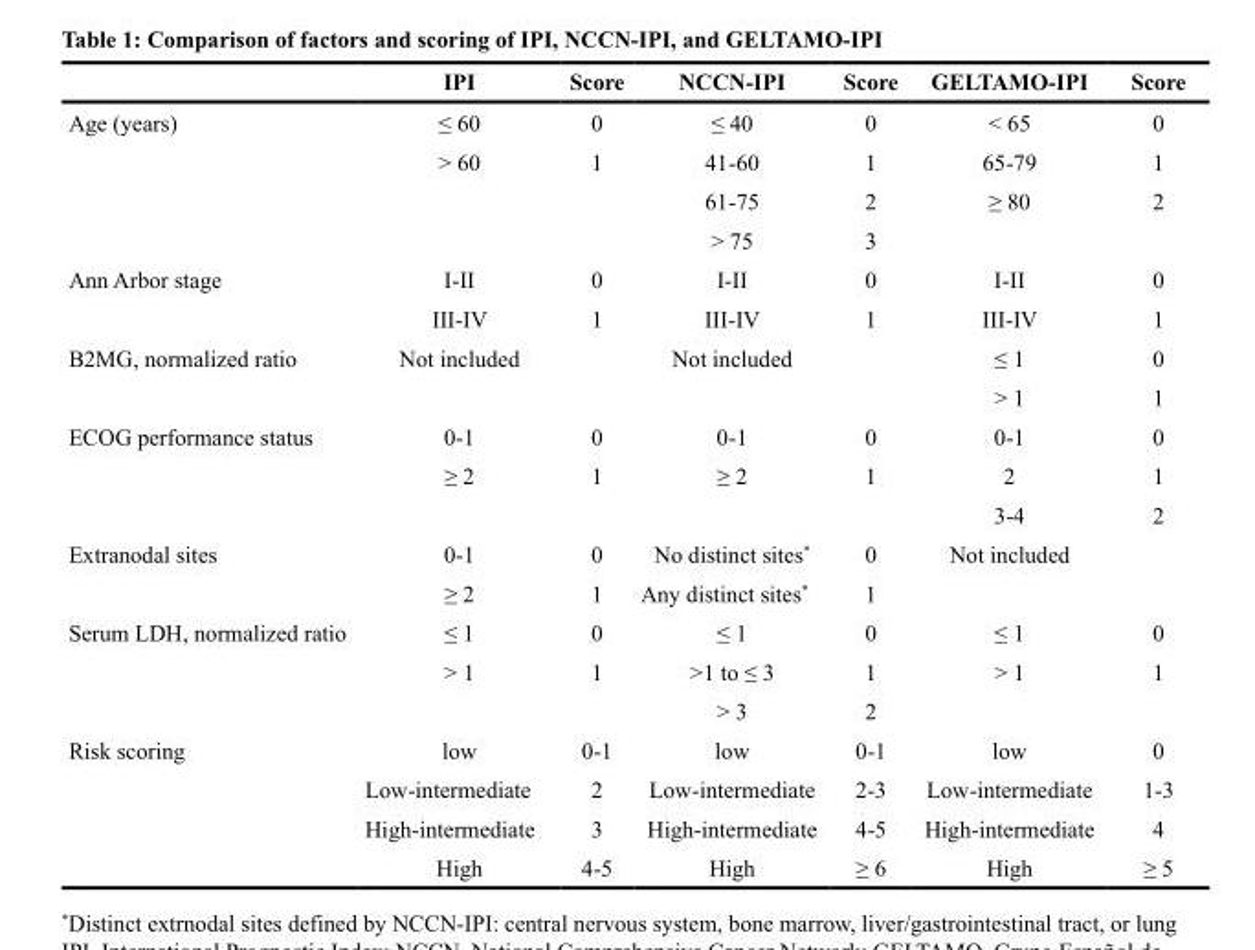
<table><thead><tr><td></td><td>IPI</td><td>Score</td><td>NCCN-IPI</td><td>Score</td><td>GELTAMO-IPI</td><td>Score</td></tr></thead><tbody><tr><td rowspan="4">Age (years)</td><td>≤ 60</td><td>0</td><td>≤ 40</td><td>0</td><td>&lt; 65</td><td>0</td></tr><tr><td>&gt; 60</td><td>1</td><td>41-60</td><td>1</td><td>65-79</td><td>1</td></tr><tr><td></td><td></td><td>61-75</td><td>2</td><td>≥ 80</td><td>2</td></tr><tr><td></td><td></td><td>&gt; 75</td><td>3</td><td></td><td></td></tr><tr><td rowspan="2">Ann Arbor stage</td><td>I-II</td><td>0</td><td>I-II</td><td>0</td><td>I-II</td><td>0</td></tr><tr><td>III-IV</td><td>1</td><td>III-IV</td><td>1</td><td>III-IV</td><td>1</td></tr><tr><td rowspan="2">B2MG, normalized ratio</td><td>Not included</td><td></td><td>Not included</td><td></td><td>≤ 1</td><td>0</td></tr><tr><td></td><td></td><td></td><td></td><td>&gt; 1</td><td>1</td></tr><tr><td rowspan="3">ECOG performance status</td><td>0-1</td><td>0</td><td>0-1</td><td>0</td><td>0-1</td><td>0</td></tr><tr><td>≥ 2</td><td>1</td><td>≥ 2</td><td>1</td><td>2</td><td>1</td></tr><tr><td></td><td></td><td></td><td></td><td>3-4</td><td>2</td></tr><tr><td rowspan="2">Extranodal sites</td><td>0-1</td><td>0</td><td>No distinct sites*</td><td>0</td><td>Not included</td><td></td></tr><tr><td>≥ 2</td><td>1</td><td>Any distinct sites*</td><td>1</td><td></td><td></td></tr><tr><td rowspan="3">Serum LDH, normalized ratio</td><td>≤ 1</td><td>0</td><td>≤ 1</td><td>0</td><td>≤ 1</td><td>0</td></tr><tr><td>&gt; 1</td><td>1</td><td>&gt;1 to ≤ 3</td><td>1</td><td>&gt; 1</td><td>1</td></tr><tr><td></td><td></td><td>&gt; 3</td><td>2</td><td></td><td></td></tr><tr><td rowspan="4">Risk scoring</td><td>low</td><td>0-1</td><td>low</td><td>0-1</td><td>low</td><td>0</td></tr><tr><td>Low-intermediate</td><td>2</td><td>Low-intermediate</td><td>2-3</td><td>Low-intermediate</td><td>1-3</td></tr><tr><td>High-intermediate</td><td>3</td><td>High-intermediate</td><td>4-5</td><td>High-intermediate</td><td>4</td></tr><tr><td>High</td><td>4-5</td><td>High</td><td>≥ 6</td><td>High</td><td>≥ 5</td></tr></tbody></table>